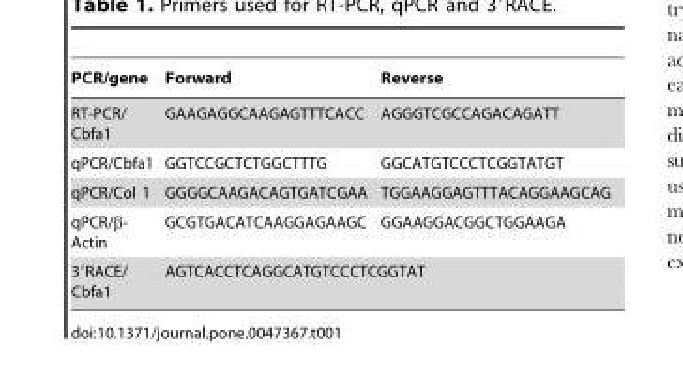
<table><thead><tr><td>PCR/gene</td><td>Forward</td><td>Reverse</td></tr></thead><tbody><tr><td>RT-PCR/ Cbfa1</td><td>GAAGAGGCAAGAGTTTCACC</td><td>AGGGTCGCCAGACAGATT</td></tr><tr><td>qPCR/Cbfa1</td><td>GGTCCGCTCTGGCTTTG</td><td>GGCATGTCCCTCGGTATGT</td></tr><tr><td>qPCR/Col 1</td><td>GGGGCAAGACAGTGATCGAA</td><td>TGGAAGGAGTTTACAGGAAGCAG</td></tr><tr><td>qPCR/β- Actin</td><td>GCGTGACATCAAGGAGAAGC</td><td>GGAAGGACGGCTGGAAGA</td></tr><tr><td>3′RACE/ Cbfa1</td><td colspan="2">AGTCACCTCAGGCATGTCCCTCGGTAT</td></tr></tbody></table>